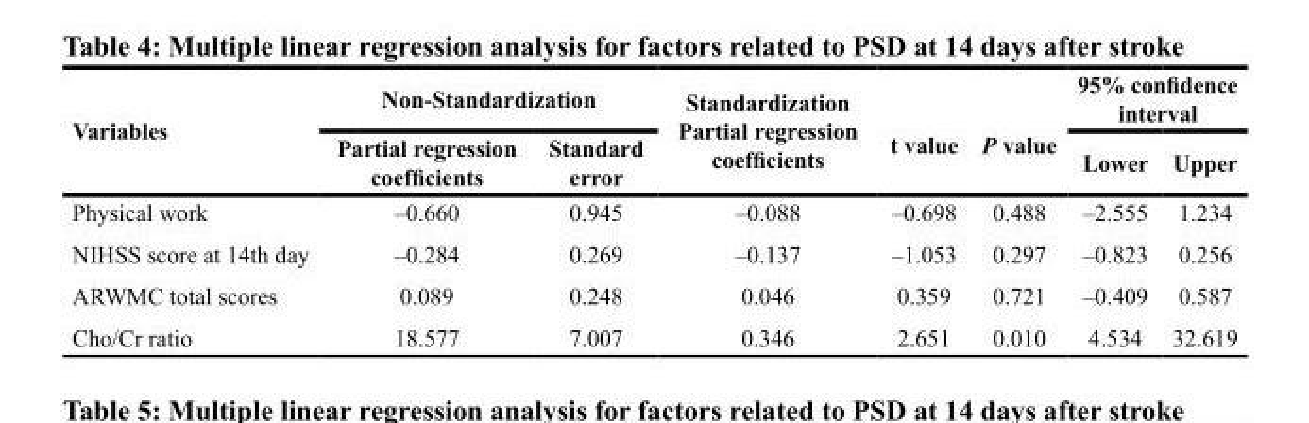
<table><thead><tr><td rowspan="2">Variables</td><td colspan="2">Non-Standardization</td><td rowspan="2">Standardization Partial regression coefficients</td><td rowspan="2">t value</td><td rowspan="2">P value</td><td colspan="2">95% confidence interval</td></tr><tr><td>Partial regression coefficients</td><td>Standard error</td><td>Lower</td><td>Upper</td></tr></thead><tbody><tr><td>Physical work</td><td>–0.660</td><td>0.945</td><td>–0.088</td><td>–0.698</td><td>0.488</td><td>–2.555</td><td>1.234</td></tr><tr><td>NIHSS score at 14th day</td><td>–0.284</td><td>0.269</td><td>–0.137</td><td>–1.053</td><td>0.297</td><td>–0.823</td><td>0.256</td></tr><tr><td>ARWMC total scores</td><td>0.089</td><td>0.248</td><td>0.046</td><td>0.359</td><td>0.721</td><td>–0.409</td><td>0.587</td></tr><tr><td>Cho/Cr ratio</td><td>18.577</td><td>7.007</td><td>0.346</td><td>2.651</td><td>0.010</td><td>4.534</td><td>32.619</td></tr></tbody></table>